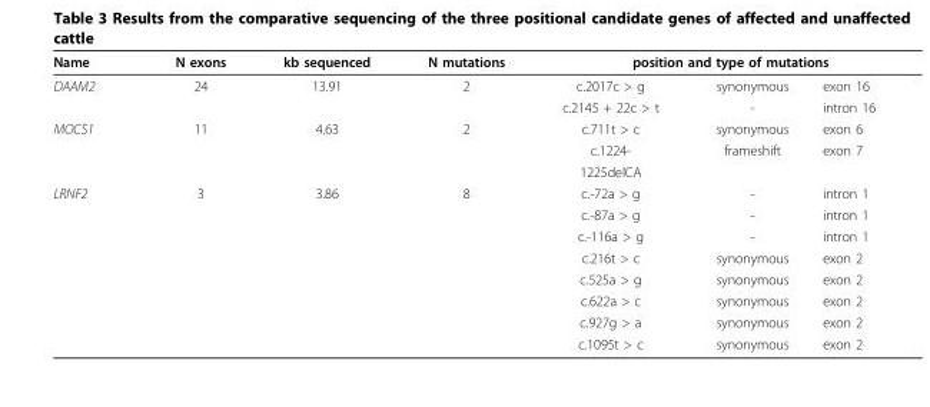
<table><thead><tr><td rowspan="2">Name DAAM2</td><td rowspan="2">N exons 24</td><td rowspan="2">kb sequenced 13.91</td><td rowspan="2">N mutations 2</td><td colspan="3">position and type of mutations</td></tr><tr><td>c.2017c &gt; g</td><td>synonymous</td><td>exon 16</td></tr></thead><tbody><tr><td></td><td></td><td></td><td></td><td>c.2145 + 22c &gt; t</td><td>-</td><td>intron 16</td></tr><tr><td rowspan="3">MOCS1</td><td>11</td><td>4.63</td><td>2</td><td>c.711t &gt; c</td><td>synonymous</td><td>exon 6</td></tr><tr><td></td><td></td><td></td><td>c.1224-</td><td>frameshift</td><td>exon 7</td></tr><tr><td></td><td></td><td></td><td>1225delCA</td><td></td><td></td></tr><tr><td rowspan="8">LRNF2</td><td>3</td><td>3.86</td><td>8</td><td>c.-72a &gt; g</td><td>-</td><td>intron 1</td></tr><tr><td></td><td></td><td></td><td>c.-87a &gt; g</td><td>-</td><td>intron 1</td></tr><tr><td></td><td></td><td></td><td>c.-116a &gt; g</td><td>-</td><td>intron 1</td></tr><tr><td></td><td></td><td></td><td>c.216t &gt; c</td><td>synonymous</td><td>exon 2</td></tr><tr><td></td><td></td><td></td><td>c.525a &gt; g</td><td>synonymous</td><td>exon 2</td></tr><tr><td></td><td></td><td></td><td>c.622a &gt; c</td><td>synonymous</td><td>exon 2</td></tr><tr><td></td><td></td><td></td><td>c.927g &gt; a</td><td>synonymous</td><td>exon 2</td></tr><tr><td></td><td></td><td></td><td>c.1095t &gt; c</td><td>synonymous</td><td>exon 2</td></tr></tbody></table>